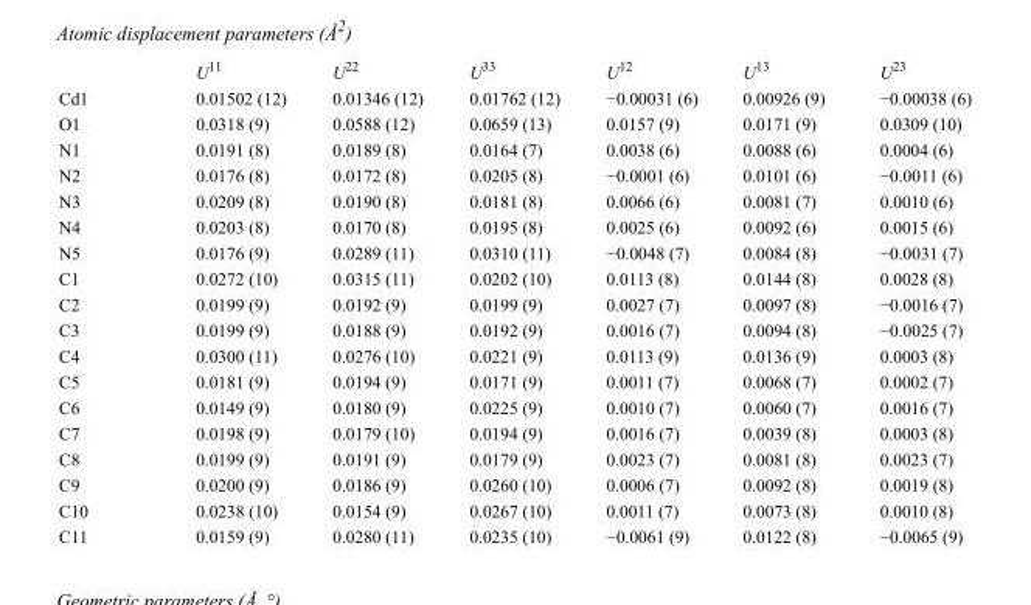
<table><thead><tr><td></td><td>U<sup>11</sup></td><td>U<sup>22</sup></td><td>U<sup>33</sup></td><td>U<sup>12</sup></td><td>U<sup>13</sup></td><td>U<sup>23</sup></td></tr></thead><tbody><tr><td>Cd1</td><td>0.01502 (12)</td><td>0.01346 (12)</td><td>0.01762 (12)</td><td>−0.00031 (6)</td><td>0.00926 (9)</td><td>−0.00038 (6)</td></tr><tr><td>O1</td><td>0.0318 (9)</td><td>0.0588 (12)</td><td>0.0659 (13)</td><td>0.0157 (9)</td><td>0.0171 (9)</td><td>0.0309 (10)</td></tr><tr><td>N1</td><td>0.0191 (8)</td><td>0.0189 (8)</td><td>0.0164 (7)</td><td>0.0038 (6)</td><td>0.0088 (6)</td><td>0.0004 (6)</td></tr><tr><td>N2</td><td>0.0176 (8)</td><td>0.0172 (8)</td><td>0.0205 (8)</td><td>−0.0001 (6)</td><td>0.0101 (6)</td><td>−0.0011 (6)</td></tr><tr><td>N3</td><td>0.0209 (8)</td><td>0.0190 (8)</td><td>0.0181 (8)</td><td>0.0066 (6)</td><td>0.0081 (7)</td><td>0.0010 (6)</td></tr><tr><td>N4</td><td>0.0203 (8)</td><td>0.0170 (8)</td><td>0.0195 (8)</td><td>0.0025 (6)</td><td>0.0092 (6)</td><td>0.0015 (6)</td></tr><tr><td>N5</td><td>0.0176 (9)</td><td>0.0289 (11)</td><td>0.0310 (11)</td><td>−0.0048 (7)</td><td>0.0084 (8)</td><td>−0.0031 (7)</td></tr><tr><td>C1</td><td>0.0272 (10)</td><td>0.0315 (11)</td><td>0.0202 (10)</td><td>0.0113 (8)</td><td>0.0144 (8)</td><td>0.0028 (8)</td></tr><tr><td>C2</td><td>0.0199 (9)</td><td>0.0192 (9)</td><td>0.0199 (9)</td><td>0.0027 (7)</td><td>0.0097 (8)</td><td>−0.0016 (7)</td></tr><tr><td>C3</td><td>0.0199 (9)</td><td>0.0188 (9)</td><td>0.0192 (9)</td><td>0.0016 (7)</td><td>0.0094 (8)</td><td>−0.0025 (7)</td></tr><tr><td>C4</td><td>0.0300 (11)</td><td>0.0276 (10)</td><td>0.0221 (9)</td><td>0.0113 (9)</td><td>0.0136 (9)</td><td>0.0003 (8)</td></tr><tr><td>C5</td><td>0.0181 (9)</td><td>0.0194 (9)</td><td>0.0171 (9)</td><td>0.0011 (7)</td><td>0.0068 (7)</td><td>0.0002 (7)</td></tr><tr><td>C6</td><td>0.0149 (9)</td><td>0.0180 (9)</td><td>0.0225 (9)</td><td>0.0010 (7)</td><td>0.0060 (7)</td><td>0.0016 (7)</td></tr><tr><td>C7</td><td>0.0198 (9)</td><td>0.0179 (10)</td><td>0.0194 (9)</td><td>0.0016 (7)</td><td>0.0039 (8)</td><td>0.0003 (8)</td></tr><tr><td>C8</td><td>0.0199 (9)</td><td>0.0191 (9)</td><td>0.0179 (9)</td><td>0.0023 (7)</td><td>0.0081 (8)</td><td>0.0023 (7)</td></tr><tr><td>C9</td><td>0.0200 (9)</td><td>0.0186 (9)</td><td>0.0260 (10)</td><td>0.0006 (7)</td><td>0.0092 (8)</td><td>0.0019 (8)</td></tr><tr><td>C10</td><td>0.0238 (10)</td><td>0.0154 (9)</td><td>0.0267 (10)</td><td>0.0011 (7)</td><td>0.0073 (8)</td><td>0.0010 (8)</td></tr><tr><td>C11</td><td>0.0159 (9)</td><td>0.0280 (11)</td><td>0.0235 (10)</td><td>−0.0061 (9)</td><td>0.0122 (8)</td><td>−0.0065 (9)</td></tr></tbody></table>